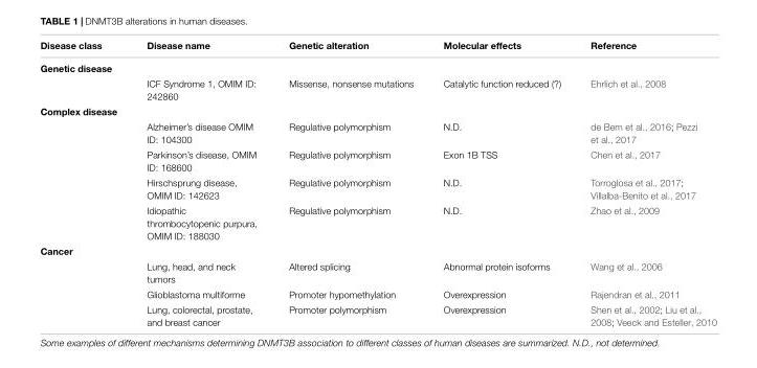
<table><thead><tr><td>Disease class</td><td>Disease name</td><td>Genetic alteration</td><td>Molecular effects</td><td>Reference</td></tr></thead><tbody><tr><td colspan="5">Genetic disease</td></tr><tr><td></td><td>ICF Syndrome 1, OMIM ID: 242860</td><td>Missense, nonsense mutations</td><td>Catalytic function reduced (?)</td><td>Ehrlich et al., 2008</td></tr><tr><td colspan="5">Complex disease</td></tr><tr><td></td><td>Alzheimer’s disease OMIM ID: 104300</td><td>Regulative polymorphism</td><td>N.D.</td><td>de Bem et al., 2016; Pezzi et al., 2017</td></tr><tr><td></td><td>Parkinson’s disease, OMIM ID: 168600</td><td>Regulative polymorphism</td><td>Exon 1B TSS</td><td>Chen et al., 2017</td></tr><tr><td></td><td>Hirschsprung disease, OMIM ID: 142623</td><td>Regulative polymorphism</td><td>N.D.</td><td>Torroglosa et al., 2017; Villalba-Benito et al., 2017</td></tr><tr><td></td><td>Idiopathic thrombocytopenic purpura, OMIM ID: 188030</td><td>Regulative polymorphism</td><td>N.D.</td><td>Zhao et al., 2009</td></tr><tr><td colspan="5">Cancer</td></tr><tr><td></td><td>Lung, head, and neck tumors</td><td>Altered splicing</td><td>Abnormal protein isoforms</td><td>Wang et al., 2006</td></tr><tr><td></td><td>Glioblastoma multiforme</td><td>Promoter hypomethylation</td><td>Overexpression</td><td>Rajendran et al., 2011</td></tr><tr><td></td><td>Lung, colorectal, prostate, and breast cancer</td><td>Promoter polymorphism</td><td>Overexpression</td><td>Shen et al., 2002; Liu et al., 2008; Veeck and Esteller, 2010</td></tr></tbody></table>